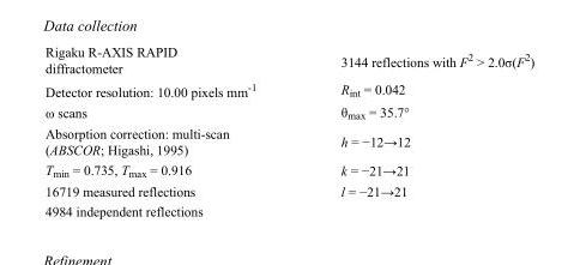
<table><tbody><tr><td>Rigaku R-AXIS RAPID diffractometer</td><td>3144 reflections with F<sup>2</sup> &gt; 2.0σ(F<sup>2</sup>)</td></tr><tr><td>Detector resolution: 10.00 pixels mm<sup>-1</sup></td><td>R<sub>int</sub> = 0.042</td></tr><tr><td>ω scans</td><td>θ<sub>max</sub> = 35.7°</td></tr><tr><td>Absorption correction: multi-scan (ABSCOR; Higashi, 1995)</td><td>h = −12→12</td></tr><tr><td>T<sub>min</sub> = 0.735, T<sub>max</sub> = 0.916</td><td>k = −21→21</td></tr><tr><td>16719 measured reflections</td><td>l = −21→21</td></tr><tr><td>4984 independent reflections</td><td></td></tr></tbody></table>